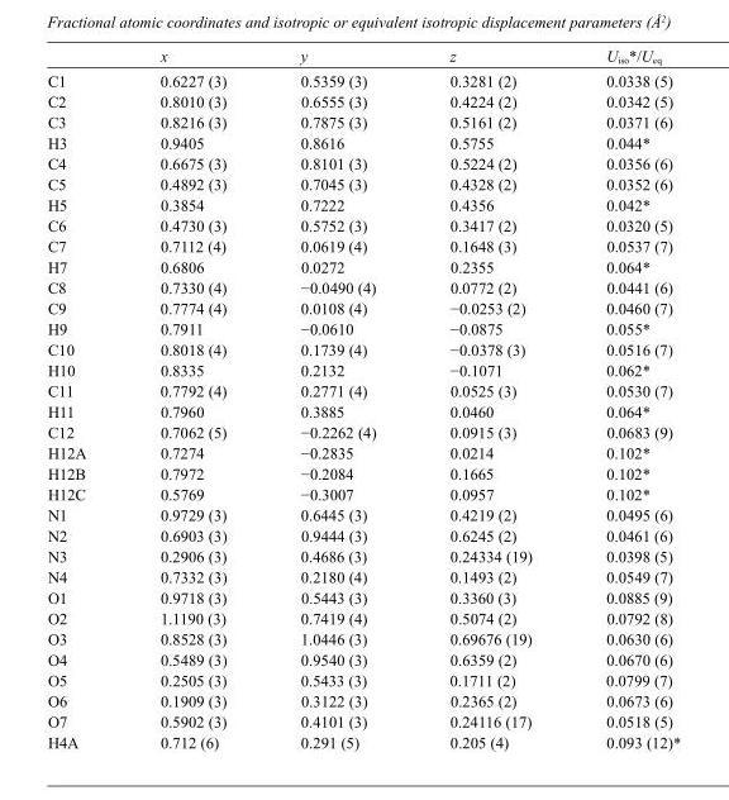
<table><thead><tr><td></td><td>x</td><td>y</td><td>z</td><td>U<sub>iso</sub>*/U<sub>eq</sub></td></tr></thead><tbody><tr><td>C1</td><td>0.6227 (3)</td><td>0.5359 (3)</td><td>0.3281 (2)</td><td>0.0338 (5)</td></tr><tr><td>C2</td><td>0.8010 (3)</td><td>0.6555 (3)</td><td>0.4224 (2)</td><td>0.0342 (5)</td></tr><tr><td>C3</td><td>0.8216 (3)</td><td>0.7875 (3)</td><td>0.5161 (2)</td><td>0.0371 (6)</td></tr><tr><td>H3</td><td>0.9405</td><td>0.8616</td><td>0.5755</td><td>0.044*</td></tr><tr><td>C4</td><td>0.6675 (3)</td><td>0.8101 (3)</td><td>0.5224 (2)</td><td>0.0356 (6)</td></tr><tr><td>C5</td><td>0.4892 (3)</td><td>0.7045 (3)</td><td>0.4328 (2)</td><td>0.0352 (6)</td></tr><tr><td>H5</td><td>0.3854</td><td>0.7222</td><td>0.4356</td><td>0.042*</td></tr><tr><td>C6</td><td>0.4730 (3)</td><td>0.5752 (3)</td><td>0.3417 (2)</td><td>0.0320 (5)</td></tr><tr><td>C7</td><td>0.7112 (4)</td><td>0.0619 (4)</td><td>0.1648 (3)</td><td>0.0537 (7)</td></tr><tr><td>H7</td><td>0.6806</td><td>0.0272</td><td>0.2355</td><td>0.064*</td></tr><tr><td>C8</td><td>0.7330 (4)</td><td>−0.0490 (4)</td><td>0.0772 (2)</td><td>0.0441 (6)</td></tr><tr><td>C9</td><td>0.7774 (4)</td><td>0.0108 (4)</td><td>−0.0253 (2)</td><td>0.0460 (7)</td></tr><tr><td>H9</td><td>0.7911</td><td>−0.0610</td><td>−0.0875</td><td>0.055*</td></tr><tr><td>C10</td><td>0.8018 (4)</td><td>0.1739 (4)</td><td>−0.0378 (3)</td><td>0.0516 (7)</td></tr><tr><td>H10</td><td>0.8335</td><td>0.2132</td><td>−0.1071</td><td>0.062*</td></tr><tr><td>C11</td><td>0.7792 (4)</td><td>0.2771 (4)</td><td>0.0525 (3)</td><td>0.0530 (7)</td></tr><tr><td>H11</td><td>0.7960</td><td>0.3885</td><td>0.0460</td><td>0.064*</td></tr><tr><td>C12</td><td>0.7062 (5)</td><td>−0.2262 (4)</td><td>0.0915 (3)</td><td>0.0683 (9)</td></tr><tr><td>H12A</td><td>0.7274</td><td>−0.2835</td><td>0.0214</td><td>0.102*</td></tr><tr><td>H12B</td><td>0.7972</td><td>−0.2084</td><td>0.1665</td><td>0.102*</td></tr><tr><td>H12C</td><td>0.5769</td><td>−0.3007</td><td>0.0957</td><td>0.102*</td></tr><tr><td>N1</td><td>0.9729 (3)</td><td>0.6445 (3)</td><td>0.4219 (2)</td><td>0.0495 (6)</td></tr><tr><td>N2</td><td>0.6903 (3)</td><td>0.9444 (3)</td><td>0.6245 (2)</td><td>0.0461 (6)</td></tr><tr><td>N3</td><td>0.2906 (3)</td><td>0.4686 (3)</td><td>0.24334 (19)</td><td>0.0398 (5)</td></tr><tr><td>N4</td><td>0.7332 (3)</td><td>0.2180 (4)</td><td>0.1493 (2)</td><td>0.0549 (7)</td></tr><tr><td>O1</td><td>0.9718 (3)</td><td>0.5443 (3)</td><td>0.3360 (3)</td><td>0.0885 (9)</td></tr><tr><td>O2</td><td>1.1190 (3)</td><td>0.7419 (4)</td><td>0.5074 (2)</td><td>0.0792 (8)</td></tr><tr><td>O3</td><td>0.8528 (3)</td><td>1.0446 (3)</td><td>0.69676 (19)</td><td>0.0630 (6)</td></tr><tr><td>O4</td><td>0.5489 (3)</td><td>0.9540 (3)</td><td>0.6359 (2)</td><td>0.0670 (6)</td></tr><tr><td>O5</td><td>0.2505 (3)</td><td>0.5433 (3)</td><td>0.1711 (2)</td><td>0.0799 (7)</td></tr><tr><td>O6</td><td>0.1909 (3)</td><td>0.3122 (3)</td><td>0.2365 (2)</td><td>0.0673 (6)</td></tr><tr><td>O7</td><td>0.5902 (3)</td><td>0.4101 (3)</td><td>0.24116 (17)</td><td>0.0518 (5)</td></tr><tr><td>H4A</td><td>0.712 (6)</td><td>0.291 (5)</td><td>0.205 (4)</td><td>0.093 (12)*</td></tr></tbody></table>